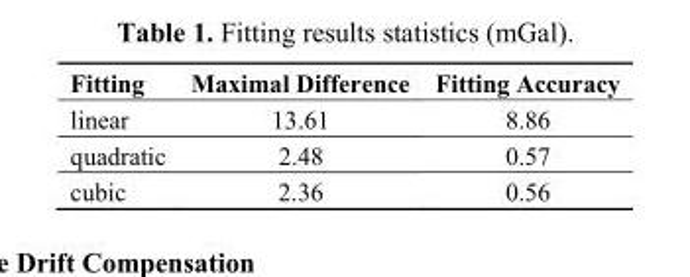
<table><thead><tr><td>Fitting</td><td>Maximal Difference</td><td>Fitting Accuracy</td></tr></thead><tbody><tr><td>linear</td><td>13.61</td><td>8.86</td></tr><tr><td>quadratic</td><td>2.48</td><td>0.57</td></tr><tr><td>cubic</td><td>2.36</td><td>0.56</td></tr></tbody></table>